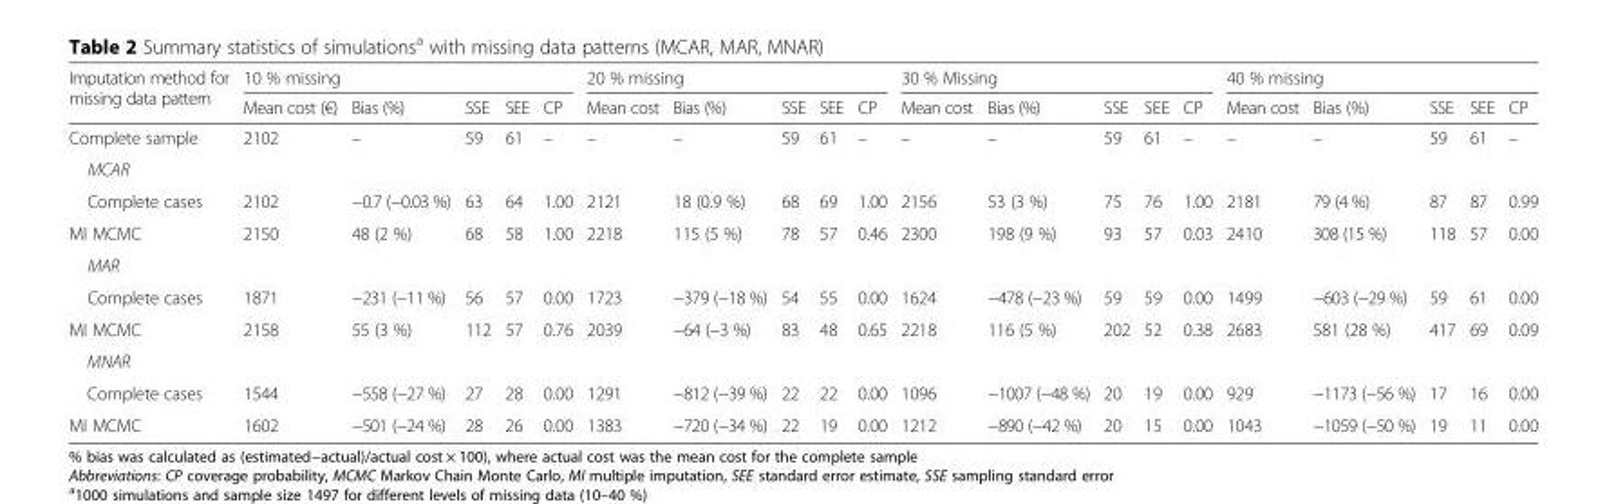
<table><thead><tr><td rowspan="2">Imputation method for missing data pattern</td><td colspan="5">10 % missing</td><td colspan="5">20 % missing</td><td colspan="5">30 % Missing</td><td colspan="5">40 % missing</td></tr><tr><td>Mean cost (€)</td><td>Bias (%)</td><td>SSE</td><td>SEE</td><td>CP</td><td>Mean cost</td><td>Bias (%)</td><td>SSE</td><td>SEE</td><td>CP</td><td>Mean cost</td><td>Bias (%)</td><td>SSE</td><td>SEE</td><td>CP</td><td>Mean cost</td><td>Bias (%)</td><td>SSE</td><td>SEE</td><td>CP</td></tr></thead><tbody><tr><td>Complete sample</td><td>2102</td><td>–</td><td>59</td><td>61</td><td>–</td><td>–</td><td>–</td><td>59</td><td>61</td><td>–</td><td>–</td><td>–</td><td>59</td><td>61</td><td>–</td><td>–</td><td>–</td><td>59</td><td>61</td><td>–</td></tr><tr><td colspan="21">MCAR</td></tr><tr><td>Complete cases</td><td>2102</td><td>−0.7 (−0.03 %)</td><td>63</td><td>64</td><td>1.00</td><td>2121</td><td>18 (0.9 %)</td><td>68</td><td>69</td><td>1.00</td><td>2156</td><td>53 (3 %)</td><td>75</td><td>76</td><td>1.00</td><td>2181</td><td>79 (4 %)</td><td>87</td><td>87</td><td>0.99</td></tr><tr><td>MI MCMC</td><td>2150</td><td>48 (2 %)</td><td>68</td><td>58</td><td>1.00</td><td>2218</td><td>115 (5 %)</td><td>78</td><td>57</td><td>0.46</td><td>2300</td><td>198 (9 %)</td><td>93</td><td>57</td><td>0.03</td><td>2410</td><td>308 (15 %)</td><td>118</td><td>57</td><td>0.00</td></tr><tr><td colspan="21">MAR</td></tr><tr><td>Complete cases</td><td>1871</td><td>−231 (−11 %)</td><td>56</td><td>57</td><td>0.00</td><td>1723</td><td>−379 (−18 %)</td><td>54</td><td>55</td><td>0.00</td><td>1624</td><td>−478 (−23 %)</td><td>59</td><td>59</td><td>0.00</td><td>1499</td><td>−603 (−29 %)</td><td>59</td><td>61</td><td>0.00</td></tr><tr><td>MI MCMC</td><td>2158</td><td>55 (3 %)</td><td>112</td><td>57</td><td>0.76</td><td>2039</td><td>−64 (−3 %)</td><td>83</td><td>48</td><td>0.65</td><td>2218</td><td>116 (5 %)</td><td>202</td><td>52</td><td>0.38</td><td>2683</td><td>581 (28 %)</td><td>417</td><td>69</td><td>0.09</td></tr><tr><td colspan="21">MNAR</td></tr><tr><td>Complete cases</td><td>1544</td><td>−558 (−27 %)</td><td>27</td><td>28</td><td>0.00</td><td>1291</td><td>−812 (−39 %)</td><td>22</td><td>22</td><td>0.00</td><td>1096</td><td>−1007 (−48 %)</td><td>20</td><td>19</td><td>0.00</td><td>929</td><td>−1173 (−56 %)</td><td>17</td><td>16</td><td>0.00</td></tr><tr><td>MI MCMC</td><td>1602</td><td>−501 (−24 %)</td><td>28</td><td>26</td><td>0.00</td><td>1383</td><td>−720 (−34 %)</td><td>22</td><td>19</td><td>0.00</td><td>1212</td><td>−890 (−42 %)</td><td>20</td><td>15</td><td>0.00</td><td>1043</td><td>−1059 (−50 %)</td><td>19</td><td>11</td><td>0.00</td></tr></tbody></table>